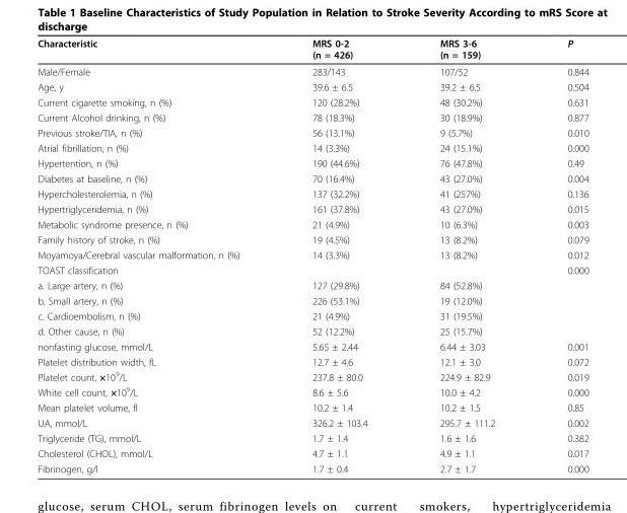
<table><thead><tr><td>Characteristic</td><td>MRS 0-2 (n = 426)</td><td>MRS 3-6 (n = 159)</td><td>P</td></tr></thead><tbody><tr><td>Male/Female</td><td>283/143</td><td>107/52</td><td>0.844</td></tr><tr><td>Age, y</td><td>39.6 ± 6.5</td><td>39.2 ± 6.5</td><td>0.504</td></tr><tr><td>Current cigarette smoking, n (%)</td><td>120 (28.2%)</td><td>48 (30.2%)</td><td>0.631</td></tr><tr><td>Current Alcohol drinking, n (%)</td><td>78 (18.3%)</td><td>30 (18.9%)</td><td>0.877</td></tr><tr><td>Previous stroke/TIA, n (%)</td><td>56 (13.1%)</td><td>9 (5.7%)</td><td>0.010</td></tr><tr><td>Atrial fibrillation, n (%)</td><td>14 (3.3%)</td><td>24 (15.1%)</td><td>0.000</td></tr><tr><td>Hypertention, n (%)</td><td>190 (44.6%)</td><td>76 (47.8%)</td><td>0.49</td></tr><tr><td>Diabetes at baseline, n (%)</td><td>70 (16.4%)</td><td>43 (27.0%)</td><td>0.004</td></tr><tr><td>Hypercholesterolemia, n (%)</td><td>137 (32.2%)</td><td>41 (257%)</td><td>0.136</td></tr><tr><td>Hypertriglyceridemia, n (%)</td><td>161 (37.8%)</td><td>43 (27.0%)</td><td>0.015</td></tr><tr><td>Metabolic syndrome presence, n (%)</td><td>21 (4.9%)</td><td>10 (6.3%)</td><td>0.003</td></tr><tr><td>Family history of stroke, n (%)</td><td>19 (4.5%)</td><td>13 (8.2%)</td><td>0.079</td></tr><tr><td>Moyamoya/Cerebral vascular malformation, n (%)</td><td>14 (3.3%)</td><td>13 (8.2%)</td><td>0.012</td></tr><tr><td>TOAST classification</td><td></td><td></td><td>0.000</td></tr><tr><td>a. Large artery, n (%)</td><td>127 (29.8%)</td><td>84 (52.8%)</td><td></td></tr><tr><td>b. Small artery, n (%)</td><td>226 (53.1%)</td><td>19 (12.0%)</td><td></td></tr><tr><td>c. Cardioembolism, n (%)</td><td>21 (4.9%)</td><td>31 (19.5%)</td><td></td></tr><tr><td>d. Other cause, n (%)</td><td>52 (12.2%)</td><td>25 (15.7%)</td><td></td></tr><tr><td>nonfasting glucose, mmol/L</td><td>5.65 ± 2.44</td><td>6.44 ± 3.03</td><td>0.001</td></tr><tr><td>Platelet distribution width, fL</td><td>12.7 ± 4.6</td><td>12.1 ± 3.0</td><td>0.072</td></tr><tr><td>Platelet count, ×10<sup>9</sup>/L</td><td>237.8 ± 80.0</td><td>224.9 ± 82.9</td><td>0.019</td></tr><tr><td>White cell count, ×10<sup>9</sup>/L</td><td>8.6 ± 5.6</td><td>10.0 ± 4.2</td><td>0.000</td></tr><tr><td>Mean platelet volume, fl</td><td>10.2 ± 1.4</td><td>10.2 ± 1.5</td><td>0.85</td></tr><tr><td>UA, mmol/L</td><td>326.2 ± 103.4</td><td>295.7 ± 111.2</td><td>0.002</td></tr><tr><td>Triglyceride (TG), mmol/L</td><td>1.7 ± 1.4</td><td>1.6 ± 1.6</td><td>0.382</td></tr><tr><td>Cholesterol (CHOL), mmol/L</td><td>4.7 ± 1.1</td><td>4.9 ± 1.1</td><td>0.017</td></tr><tr><td>Fibrinogen, g/l</td><td>1.7 ± 0.4</td><td>2.7 ± 1.7</td><td>0.000</td></tr></tbody></table>